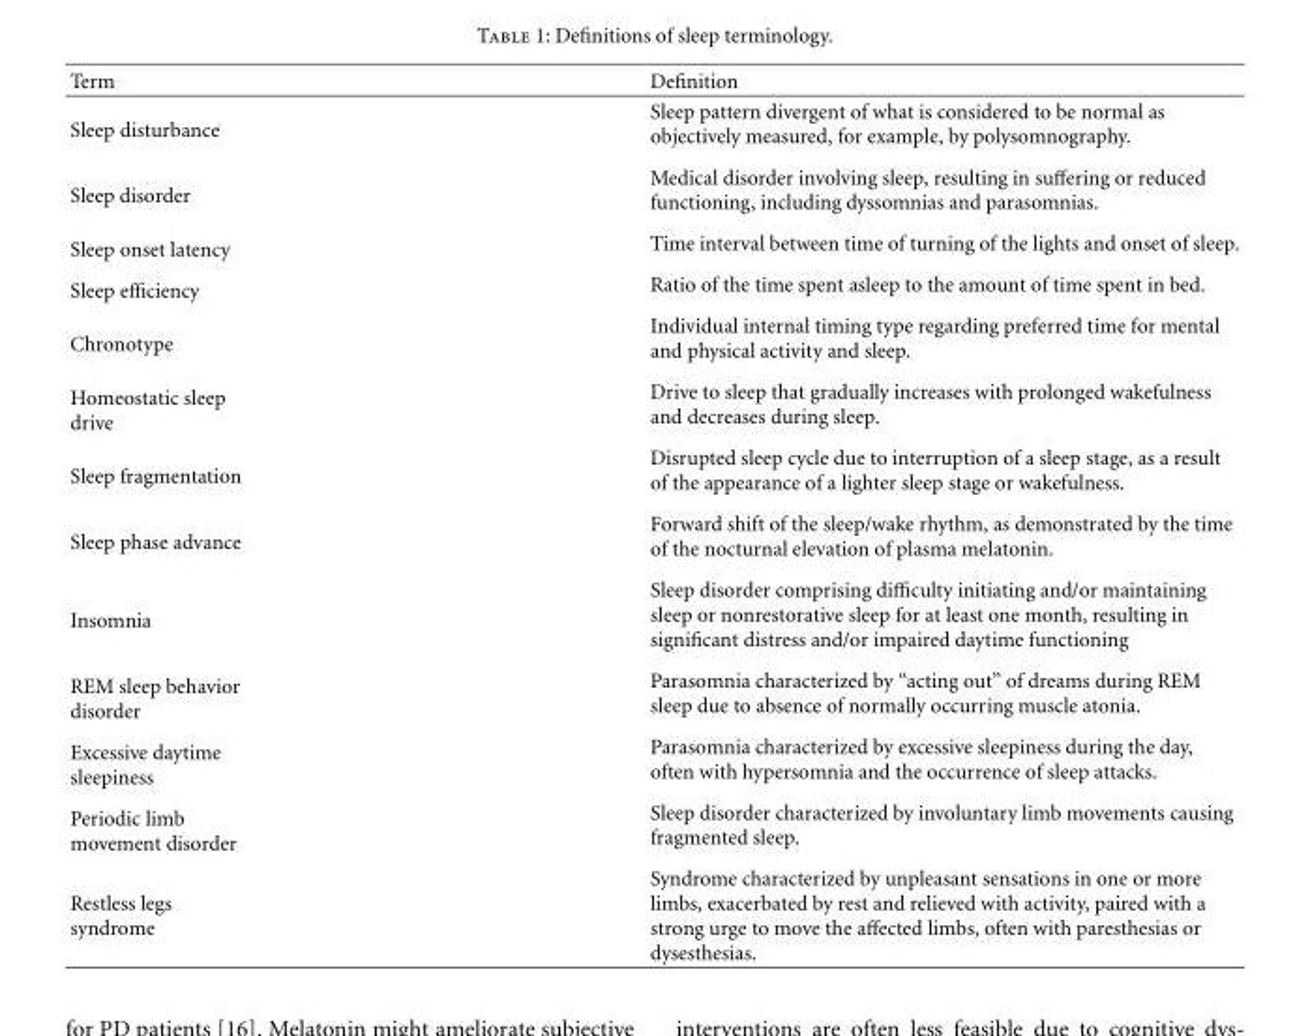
<table><thead><tr><td>Term</td><td>Definition</td></tr></thead><tbody><tr><td>Sleep disturbance</td><td>Sleep pattern divergent of what is considered to be normal as objectively measured, for example, by polysomnography.</td></tr><tr><td>Sleep disorder</td><td>Medical disorder involving sleep, resulting in suffering or reduced functioning, including dyssomnias and parasomnias.</td></tr><tr><td>Sleep onset latency</td><td>Time interval between time of turning of the lights and onset of sleep.</td></tr><tr><td>Sleep efficiency</td><td>Ratio of the time spent asleep to the amount of time spent in bed.</td></tr><tr><td>Chronotype</td><td>Individual internal timing type regarding preferred time for mental and physical activity and sleep.</td></tr><tr><td>Homeostatic sleep drive</td><td>Drive to sleep that gradually increases with prolonged wakefulness and decreases during sleep.</td></tr><tr><td>Sleep fragmentation</td><td>Disrupted sleep cycle due to interruption of a sleep stage, as a result of the appearance of a lighter sleep stage or wakefulness.</td></tr><tr><td>Sleep phase advance</td><td>Forward shift of the sleep/wake rhythm, as demonstrated by the time of the nocturnal elevation of plasma melatonin.</td></tr><tr><td>Insomnia</td><td>Sleep disorder comprising difficulty initiating and/or maintaining sleep or nonrestorative sleep for at least one month, resulting in significant distress and/or impaired daytime functioning</td></tr><tr><td>REM sleep behavior disorder</td><td>Parasomnia characterized by “acting out” of dreams during REM sleep due to absence of normally occurring muscle atonia.</td></tr><tr><td>Excessive daytime sleepiness</td><td>Parasomnia characterized by excessive sleepiness during the day, often with hypersomnia and the occurrence of sleep attacks.</td></tr><tr><td>Periodic limb movement disorder</td><td>Sleep disorder characterized by involuntary limb movements causing fragmented sleep.</td></tr><tr><td>Restless legs syndrome</td><td>Syndrome characterized by unpleasant sensations in one or more limbs, exacerbated by rest and relieved with activity, paired with a strong urge to move the affected limbs, often with paresthesias or dysesthesias.</td></tr></tbody></table>